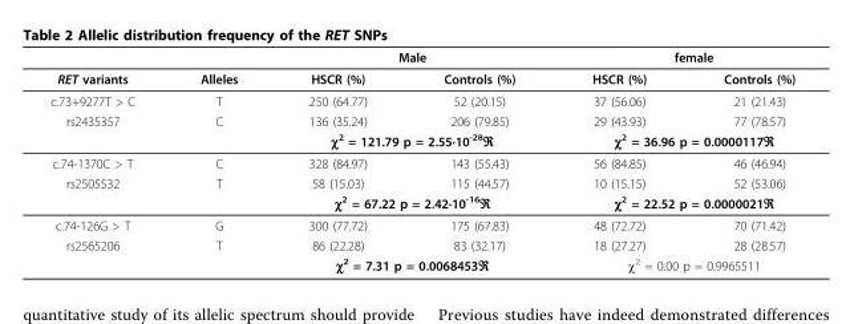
<table><thead><tr><td rowspan="2">RET variants</td><td rowspan="2">Alleles</td><td colspan="2">Male</td><td colspan="2">female</td></tr><tr><td>HSCR (%)</td><td>Controls (%)</td><td>HSCR (%)</td><td>Controls (%)</td></tr></thead><tbody><tr><td>c.73+9277T &gt; C</td><td>T</td><td>250 (64.77)</td><td>52 (20.15)</td><td>37 (56.06)</td><td>21 (21.43)</td></tr><tr><td rowspan="2">rs2435357</td><td>C</td><td>136 (35.24)</td><td>206 (79.85)</td><td>29 (43.93)</td><td>77 (78.57)</td></tr><tr><td></td><td colspan="2">c2 = 121.79 p = 2.55·10-28¬</td><td colspan="2">c2 = 36.96 p = 0.0000117¬</td></tr><tr><td>c.74-1370C &gt; T</td><td>C</td><td>328 (84.97)</td><td>143 (55.43)</td><td>56 (84.85)</td><td>46 (46.94)</td></tr><tr><td rowspan="2">rs2505532</td><td>T</td><td>58 (15.03)</td><td>115 (44.57)</td><td>10 (15.15)</td><td>52 (53.06)</td></tr><tr><td></td><td colspan="2">c2 = 67.22 p = 2.42·10-16¬</td><td colspan="2">c2 = 22.52 p = 0.0000021¬</td></tr><tr><td>c.74-126G &gt; T</td><td>G</td><td>300 (77.72)</td><td>175 (67.83)</td><td>48 (72.72)</td><td>70 (71.42)</td></tr><tr><td rowspan="2">rs2565206</td><td>T</td><td>86 (22.28)</td><td>83 (32.17)</td><td>18 (27.27)</td><td>28 (28.57)</td></tr><tr><td></td><td colspan="2">c2 = 7.31 p = 0.0068453¬</td><td colspan="2">χ<sup>2</sup> = 0.00 p = 0.9965511</td></tr></tbody></table>